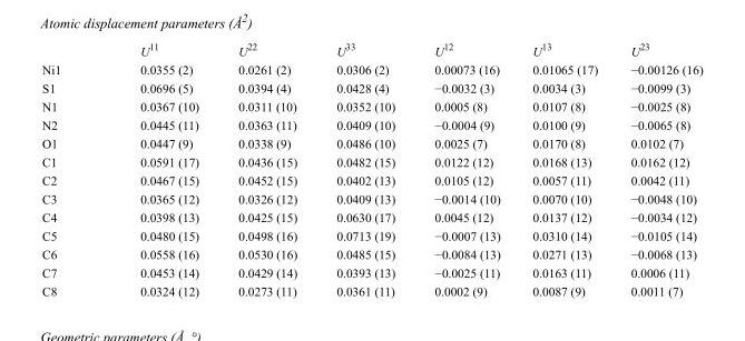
<table><thead><tr><td></td><td>U<sup>11</sup></td><td>U<sup>22</sup></td><td>U<sup>33</sup></td><td>U<sup>12</sup></td><td>U<sup>13</sup></td><td>U<sup>23</sup></td></tr></thead><tbody><tr><td>Ni1</td><td>0.0355 (2)</td><td>0.0261 (2)</td><td>0.0306 (2)</td><td>0.00073 (16)</td><td>0.01065 (17)</td><td>−0.00126 (16)</td></tr><tr><td>S1</td><td>0.0696 (5)</td><td>0.0394 (4)</td><td>0.0428 (4)</td><td>−0.0032 (3)</td><td>0.0034 (3)</td><td>−0.0099 (3)</td></tr><tr><td>N1</td><td>0.0367 (10)</td><td>0.0311 (10)</td><td>0.0352 (10)</td><td>0.0005 (8)</td><td>0.0107 (8)</td><td>−0.0025 (8)</td></tr><tr><td>N2</td><td>0.0445 (11)</td><td>0.0363 (11)</td><td>0.0409 (10)</td><td>−0.0004 (9)</td><td>0.0100 (9)</td><td>−0.0065 (8)</td></tr><tr><td>O1</td><td>0.0447 (9)</td><td>0.0338 (9)</td><td>0.0486 (10)</td><td>0.0025 (7)</td><td>0.0170 (8)</td><td>0.0102 (7)</td></tr><tr><td>C1</td><td>0.0591 (17)</td><td>0.0436 (15)</td><td>0.0482 (15)</td><td>0.0122 (12)</td><td>0.0168 (13)</td><td>0.0162 (12)</td></tr><tr><td>C2</td><td>0.0467 (15)</td><td>0.0452 (15)</td><td>0.0402 (13)</td><td>0.0105 (12)</td><td>0.0057 (11)</td><td>0.0042 (11)</td></tr><tr><td>C3</td><td>0.0365 (12)</td><td>0.0326 (12)</td><td>0.0409 (13)</td><td>−0.0014 (10)</td><td>0.0070 (10)</td><td>−0.0048 (10)</td></tr><tr><td>C4</td><td>0.0398 (13)</td><td>0.0425 (15)</td><td>0.0630 (17)</td><td>0.0045 (12)</td><td>0.0137 (12)</td><td>−0.0034 (12)</td></tr><tr><td>C5</td><td>0.0480 (15)</td><td>0.0498 (16)</td><td>0.0713 (19)</td><td>−0.0007 (13)</td><td>0.0310 (14)</td><td>−0.0105 (14)</td></tr><tr><td>C6</td><td>0.0558 (16)</td><td>0.0530 (16)</td><td>0.0485 (15)</td><td>−0.0084 (13)</td><td>0.0271 (13)</td><td>−0.0068 (13)</td></tr><tr><td>C7</td><td>0.0453 (14)</td><td>0.0429 (14)</td><td>0.0393 (13)</td><td>−0.0025 (11)</td><td>0.0163 (11)</td><td>0.0006 (11)</td></tr><tr><td>C8</td><td>0.0324 (12)</td><td>0.0273 (11)</td><td>0.0361 (11)</td><td>0.0002 (9)</td><td>0.0087 (9)</td><td>0.0011 (7)</td></tr></tbody></table>